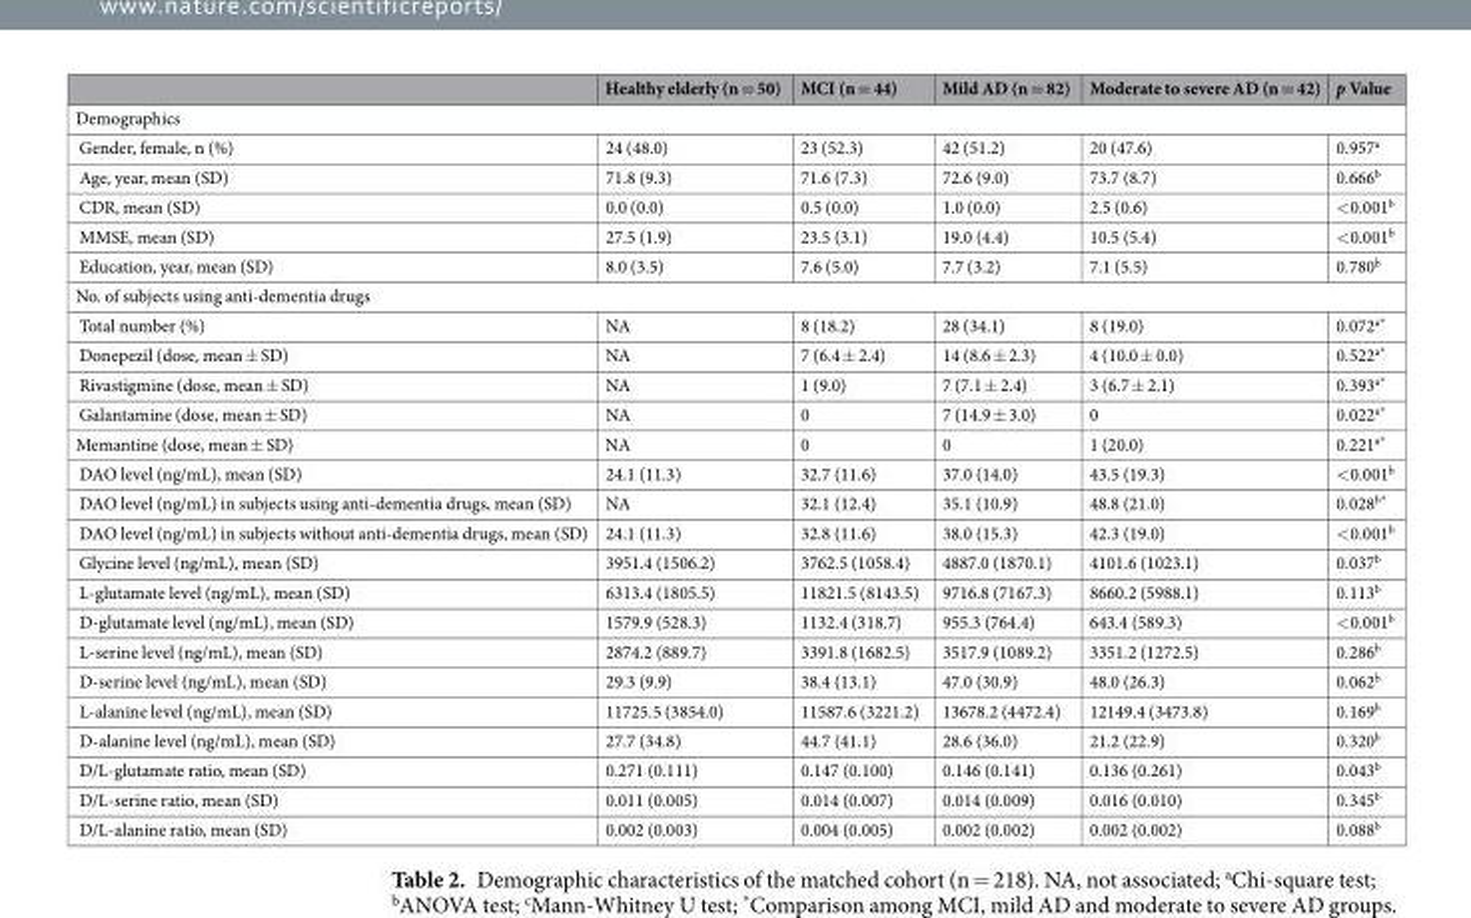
<table><thead><tr><td></td><td>Healthy elderly (n = 50)</td><td>MCI (n = 44)</td><td>Mild AD (n = 82)</td><td>Moderate to severe AD (n = 42)</td><td>p Value</td></tr></thead><tbody><tr><td colspan="6">Demographics</td></tr><tr><td>Gender, female, n (%)</td><td>24 (48.0)</td><td>23 (52.3)</td><td>42 (51.2)</td><td>20 (47.6)</td><td>0.957<sup>a</sup></td></tr><tr><td>Age, year, mean (SD)</td><td>71.8 (9.3)</td><td>71.6 (7.3)</td><td>72.6 (9.0)</td><td>73.7 (8.7)</td><td>0.666<sup>b</sup></td></tr><tr><td>CDR, mean (SD)</td><td>0.0 (0.0)</td><td>0.5 (0.0)</td><td>1.0 (0.0)</td><td>2.5 (0.6)</td><td>&lt;0.001<sup>b</sup></td></tr><tr><td>MMSE, mean (SD)</td><td>27.5 (1.9)</td><td>23.5 (3.1)</td><td>19.0 (4.4)</td><td>10.5 (5.4)</td><td>&lt;0.001<sup>b</sup></td></tr><tr><td>Education, year, mean (SD)</td><td>8.0 (3.5)</td><td>7.6 (5.0)</td><td>7.7 (3.2)</td><td>7.1 (5.5)</td><td>0.780<sup>b</sup></td></tr><tr><td colspan="6">No. of subjects using anti-dementia drugs</td></tr><tr><td>Total number (%)</td><td>NA</td><td>8 (18.2)</td><td>28 (34.1)</td><td>8 (19.0)</td><td>0.072<sup>a*</sup></td></tr><tr><td>Donepezil (dose, mean ± SD)</td><td>NA</td><td>7 (6.4 ± 2.4)</td><td>14 (8.6 ± 2.3)</td><td>4 (10.0 ± 0.0)</td><td>0.522<sup>a*</sup></td></tr><tr><td>Rivastigmine (dose, mean ± SD)</td><td>NA</td><td>1 (9.0)</td><td>7 (7.1 ± 2.4)</td><td>3 (6.7 ± 2.1)</td><td>0.393<sup>a*</sup></td></tr><tr><td>Galantamine (dose, mean ± SD)</td><td>NA</td><td>0</td><td>7 (14.9 ± 3.0)</td><td>0</td><td>0.022<sup>a*</sup></td></tr><tr><td>Memantine (dose, mean ± SD)</td><td>NA</td><td>0</td><td>0</td><td>1 (20.0)</td><td>0.221<sup>a*</sup></td></tr><tr><td>DAO level (ng/mL), mean (SD)</td><td>24.1 (11.3)</td><td>32.7 (11.6)</td><td>37.0 (14.0)</td><td>43.5 (19.3)</td><td>&lt;0.001<sup>b</sup></td></tr><tr><td>DAO level (ng/mL) in subjects using anti-dementia drugs, mean (SD)</td><td>NA</td><td>32.1 (12.4)</td><td>35.1 (10.9)</td><td>48.8 (21.0)</td><td>0.028<sup>b*</sup></td></tr><tr><td>DAO level (ng/mL) in subjects without anti-dementia drugs, mean (SD)</td><td>24.1 (11.3)</td><td>32.8 (11.6)</td><td>38.0 (15.3)</td><td>42.3 (19.0)</td><td>&lt;0.001<sup>b</sup></td></tr><tr><td>Glycine level (ng/mL), mean (SD)</td><td>3951.4 (1506.2)</td><td>3762.5 (1058.4)</td><td>4887.0 (1870.1)</td><td>4101.6 (1023.1)</td><td>0.037<sup>b</sup></td></tr><tr><td>L-glutamate level (ng/mL), mean (SD)</td><td>6313.4 (1805.5)</td><td>11821.5 (8143.5)</td><td>9716.8 (7167.3)</td><td>8660.2 (5988.1)</td><td>0.113<sup>b</sup></td></tr><tr><td>D-glutamate level (ng/mL), mean (SD)</td><td>1579.9 (528.3)</td><td>1132.4 (318.7)</td><td>955.3 (764.4)</td><td>643.4 (589.3)</td><td>&lt;0.001<sup>b</sup></td></tr><tr><td>L-serine level (ng/mL), mean (SD)</td><td>2874.2 (889.7)</td><td>3391.8 (1682.5)</td><td>3517.9 (1089.2)</td><td>3351.2 (1272.5)</td><td>0.286<sup>b</sup></td></tr><tr><td>D-serine level (ng/mL), mean (SD)</td><td>29.3 (9.9)</td><td>38.4 (13.1)</td><td>47.0 (30.9)</td><td>48.0 (26.3)</td><td>0.062<sup>b</sup></td></tr><tr><td>L-alanine level (ng/mL), mean (SD)</td><td>11725.5 (3854.0)</td><td>11587.6 (3221.2)</td><td>13678.2 (4472.4)</td><td>12149.4 (3473.8)</td><td>0.169<sup>b</sup></td></tr><tr><td>D-alanine level (ng/mL), mean (SD)</td><td>27.7 (34.8)</td><td>44.7 (41.1)</td><td>28.6 (36.0)</td><td>21.2 (22.9)</td><td>0.320<sup>b</sup></td></tr><tr><td>D/L-glutamate ratio, mean (SD)</td><td>0.271 (0.111)</td><td>0.147 (0.100)</td><td>0.146 (0.141)</td><td>0.136 (0.261)</td><td>0.043<sup>b</sup></td></tr><tr><td>D/L-serine ratio, mean (SD)</td><td>0.011 (0.005)</td><td>0.014 (0.007)</td><td>0.014 (0.009)</td><td>0.016 (0.010)</td><td>0.345<sup>b</sup></td></tr><tr><td>D/L-alanine ratio, mean (SD)</td><td>0.002 (0.003)</td><td>0.004 (0.005)</td><td>0.002 (0.002)</td><td>0.002 (0.002)</td><td>0.088<sup>b</sup></td></tr></tbody></table>